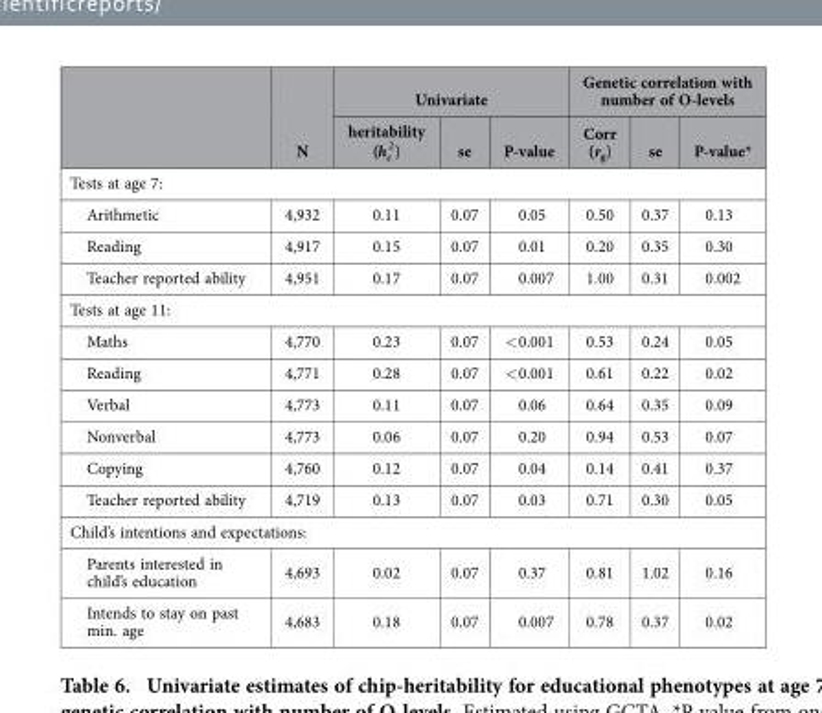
<table><thead><tr><td rowspan="2"></td><td rowspan="2">N</td><td colspan="3">Univariate</td><td colspan="3">Genetic correlation with number of O-levels</td></tr><tr><td>heritability (hc 2)</td><td>se</td><td>P-value</td><td>Corr (r<sub>g</sub>)</td><td>se</td><td>P-value*</td></tr></thead><tbody><tr><td colspan="8">Tests at age 7:</td></tr><tr><td>Arithmetic</td><td>4,932</td><td>0.11</td><td>0.07</td><td>0.05</td><td>0.50</td><td>0.37</td><td>0.13</td></tr><tr><td>Reading</td><td>4,917</td><td>0.15</td><td>0.07</td><td>0.01</td><td>0.20</td><td>0.35</td><td>0.30</td></tr><tr><td>Teacher reported ability</td><td>4,951</td><td>0.17</td><td>0.07</td><td>0.007</td><td>1.00</td><td>0.31</td><td>0.002</td></tr><tr><td colspan="8">Tests at age 11:</td></tr><tr><td>Maths</td><td>4,770</td><td>0.23</td><td>0.07</td><td>&lt; 0.001</td><td>0.53</td><td>0.24</td><td>0.05</td></tr><tr><td>Reading</td><td>4,771</td><td>0.28</td><td>0.07</td><td>&lt; 0.001</td><td>0.61</td><td>0.22</td><td>0.02</td></tr><tr><td>Verbal</td><td>4,773</td><td>0.11</td><td>0.07</td><td>0.06</td><td>0.64</td><td>0.35</td><td>0.09</td></tr><tr><td>Nonverbal</td><td>4,773</td><td>0.06</td><td>0.07</td><td>0.20</td><td>0.94</td><td>0.53</td><td>0.07</td></tr><tr><td>Copying</td><td>4,760</td><td>0.12</td><td>0.07</td><td>0.04</td><td>0.14</td><td>0.41</td><td>0.37</td></tr><tr><td>Teacher reported ability</td><td>4,719</td><td>0.13</td><td>0.07</td><td>0.03</td><td>0.71</td><td>0.30</td><td>0.05</td></tr><tr><td colspan="8">Child’s intentions and expectations:</td></tr><tr><td>Parents interested in child’s education</td><td>4,693</td><td>0.02</td><td>0.07</td><td>0.37</td><td>0.81</td><td>1.02</td><td>0.16</td></tr><tr><td>Intends to stay on past min. age</td><td>4,683</td><td>0.18</td><td>0.07</td><td>0.007</td><td>0.78</td><td>0.37</td><td>0.02</td></tr></tbody></table>